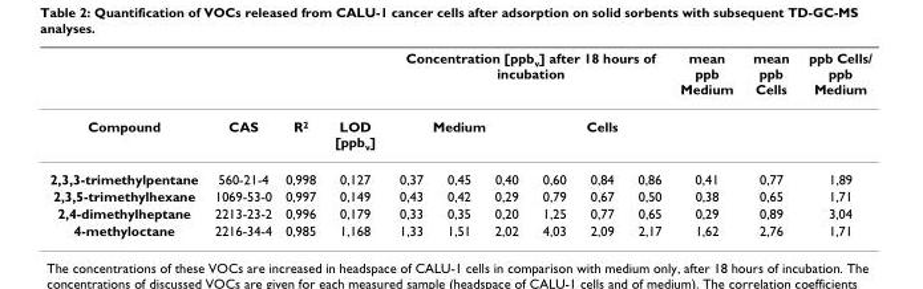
<table><thead><tr><td rowspan="3">Compound 2,3,3-trimethylpentane</td><td rowspan="3">CAS 560-21-4</td><td rowspan="3">R2 0,998</td><td rowspan="3">LOD [ppbv] 0,127</td><td colspan="6">Concentration [ppbv] after 18 hours of incubation</td><td rowspan="3">mean ppb Medium 0,41</td><td rowspan="3">mean ppb Cells 0,77</td><td rowspan="3">ppb Cells/ ppb Medium 1,89</td></tr><tr><td colspan="3">Medium</td><td colspan="3">Cells</td></tr><tr><td>0,37</td><td>0,45</td><td>0,40</td><td>0,60</td><td>0,84</td><td>0,86</td></tr></thead><tbody><tr><td>2,3,5-trimethylhexane</td><td>1069-53-0</td><td>0,997</td><td>0,149</td><td>0,43</td><td>0,42</td><td>0,29</td><td>0,79</td><td>0,67</td><td>0,50</td><td>0,38</td><td>0,65</td><td>1,71</td></tr><tr><td>2,4-dimethylheptane</td><td>2213-23-2</td><td>0,996</td><td>0,179</td><td>0,33</td><td>0,35</td><td>0,20</td><td>1,25</td><td>0,77</td><td>0,65</td><td>0,29</td><td>0,89</td><td>3,04</td></tr><tr><td>4-methyloctane</td><td>2216-34-4</td><td>0,985</td><td>1,168</td><td>1,33</td><td>1,51</td><td>2,02</td><td>4,03</td><td>2,09</td><td>2,17</td><td>1,62</td><td>2,76</td><td>1,71</td></tr></tbody></table>